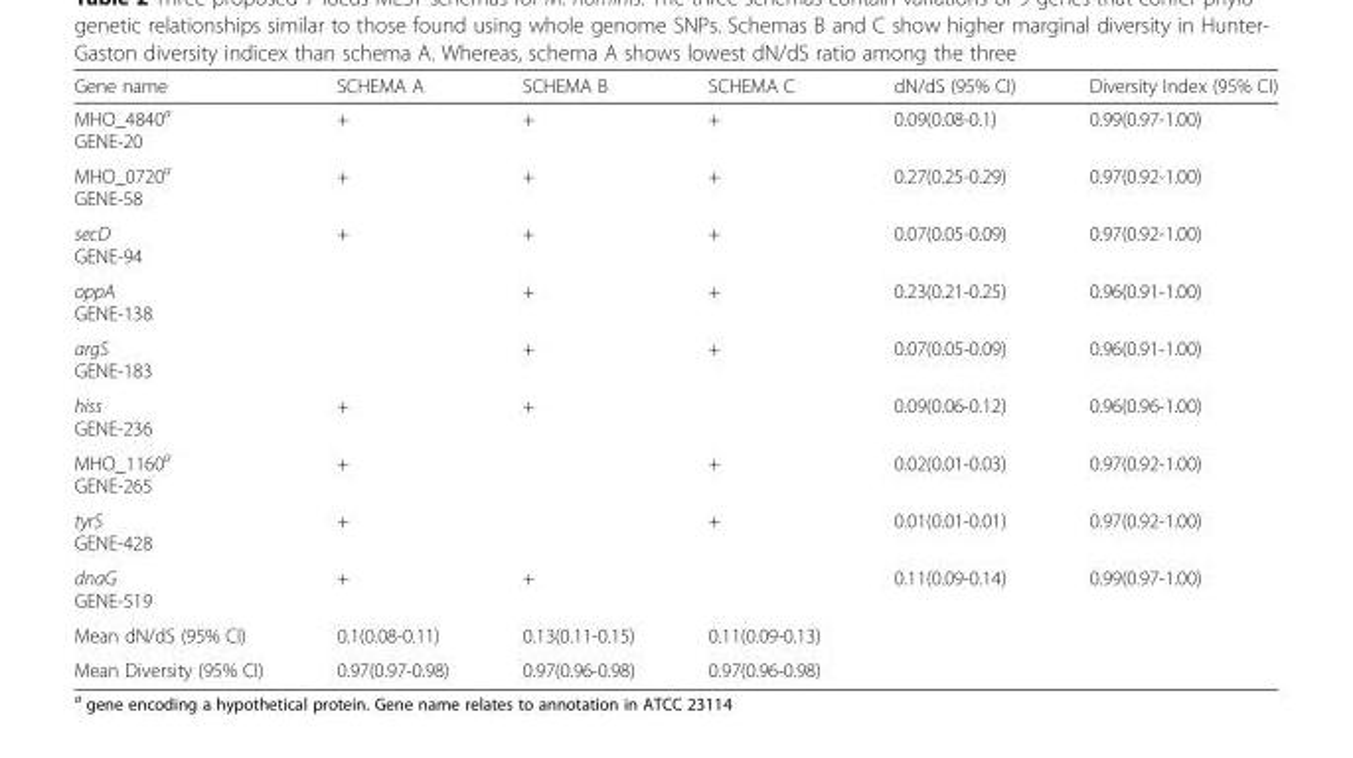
<table><thead><tr><td>Gene name</td><td>SCHEMA A</td><td>SCHEMA B</td><td>SCHEMA C</td><td>dN/dS (95% CI)</td><td>Diversity Index (95% CI)</td></tr></thead><tbody><tr><td>MHO_4840<sup>a</sup> GENE-20</td><td>+</td><td>+</td><td>+</td><td>0.09(0.08-0.1)</td><td>0.99(0.97-1.00)</td></tr><tr><td>MHO_0720<sup>a</sup> GENE-58</td><td>+</td><td>+</td><td>+</td><td>0.27(0.25-0.29)</td><td>0.97(0.92-1.00)</td></tr><tr><td>secD GENE-94</td><td>+</td><td>+</td><td>+</td><td>0.07(0.05-0.09)</td><td>0.97(0.92-1.00)</td></tr><tr><td>oppA GENE-138</td><td></td><td>+</td><td>+</td><td>0.23(0.21-0.25)</td><td>0.96(0.91-1.00)</td></tr><tr><td>argS GENE-183</td><td></td><td>+</td><td>+</td><td>0.07(0.05-0.09)</td><td>0.96(0.91-1.00)</td></tr><tr><td>hiss GENE-236</td><td>+</td><td>+</td><td></td><td>0.09(0.06-0.12)</td><td>0.96(0.96-1.00)</td></tr><tr><td>MHO_1160<sup>a</sup> GENE-265</td><td>+</td><td></td><td>+</td><td>0.02(0.01-0.03)</td><td>0.97(0.92-1.00)</td></tr><tr><td>tyrS GENE-428</td><td>+</td><td></td><td>+</td><td>0.01(0.01-0.01)</td><td>0.97(0.92-1.00)</td></tr><tr><td>dnaG GENE-519</td><td>+</td><td>+</td><td></td><td>0.11(0.09-0.14)</td><td>0.99(0.97-1.00)</td></tr><tr><td>Mean dN/dS (95% CI)</td><td>0.1(0.08-0.11)</td><td>0.13(0.11-0.15)</td><td>0.11(0.09-0.13)</td><td></td><td></td></tr><tr><td>Mean Diversity (95% CI)</td><td>0.97(0.97-0.98)</td><td>0.97(0.96-0.98)</td><td>0.97(0.96-0.98)</td><td></td><td></td></tr></tbody></table>